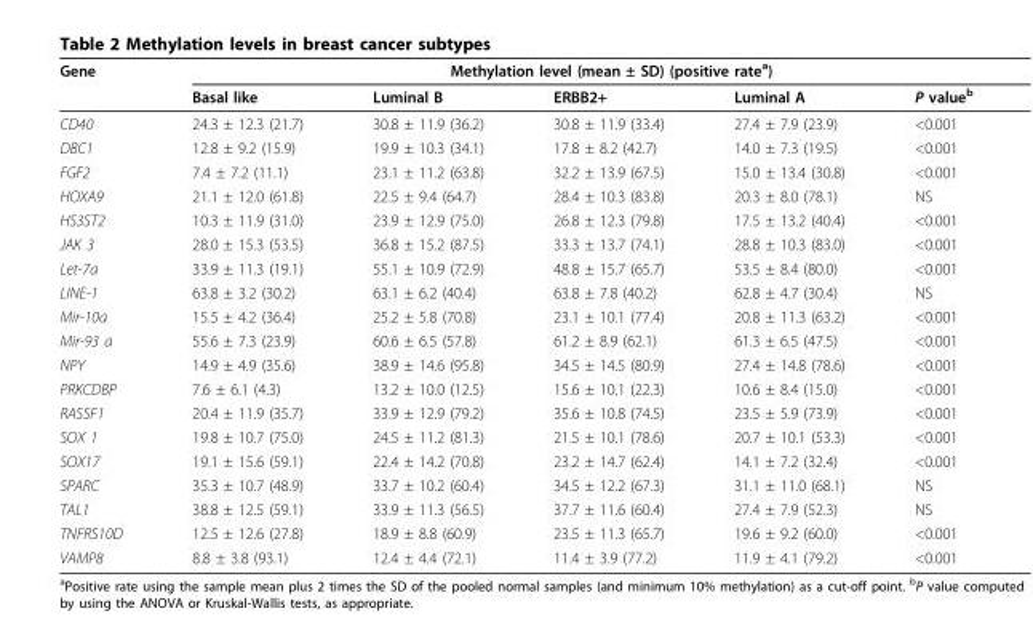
<table><thead><tr><td rowspan="2">Gene</td><td colspan="5">Methylation level (mean ± SD) (positive rate<sup>a</sup>)</td></tr><tr><td>Basal like</td><td>Luminal B</td><td>ERBB2+</td><td>Luminal A</td><td>P value<sup>b</sup></td></tr></thead><tbody><tr><td>CD40</td><td>24.3 ± 12.3 (21.7)</td><td>30.8 ± 11.9 (36.2)</td><td>30.8 ± 11.9 (33.4)</td><td>27.4 ± 7.9 (23.9)</td><td>&lt;0.001</td></tr><tr><td>DBC1</td><td>12.8 ± 9.2 (15.9)</td><td>19.9 ± 10.3 (34.1)</td><td>17.8 ± 8.2 (42.7)</td><td>14.0 ± 7.3 (19.5)</td><td>&lt;0.001</td></tr><tr><td>FGF2</td><td>7.4 ± 7.2 (11.1)</td><td>23.1 ± 11.2 (63.8)</td><td>32.2 ± 13.9 (67.5)</td><td>15.0 ± 13.4 (30.8)</td><td>&lt;0.001</td></tr><tr><td>HOXA9</td><td>21.1 ± 12.0 (61.8)</td><td>22.5 ± 9.4 (64.7)</td><td>28.4 ± 10.3 (83.8)</td><td>20.3 ± 8.0 (78.1)</td><td>NS</td></tr><tr><td>HS3ST2</td><td>10.3 ± 11.9 (31.0)</td><td>23.9 ± 12.9 (75.0)</td><td>26.8 ± 12.3 (79.8)</td><td>17.5 ± 13.2 (40.4)</td><td>&lt;0.001</td></tr><tr><td>JAK 3</td><td>28.0 ± 15.3 (53.5)</td><td>36.8 ± 15.2 (87.5)</td><td>33.3 ± 13.7 (74.1)</td><td>28.8 ± 10.3 (83.0)</td><td>&lt;0.001</td></tr><tr><td>Let-7a</td><td>33.9 ± 11.3 (19.1)</td><td>55.1 ± 10.9 (72.9)</td><td>48.8 ± 15.7 (65.7)</td><td>53.5 ± 8.4 (80.0)</td><td>&lt;0.001</td></tr><tr><td>LINE-1</td><td>63.8 ± 3.2 (30.2)</td><td>63.1 ± 6.2 (40.4)</td><td>63.8 ± 7.8 (40.2)</td><td>62.8 ± 4.7 (30.4)</td><td>NS</td></tr><tr><td>Mir-10a</td><td>15.5 ± 4.2 (36.4)</td><td>25.2 ± 5.8 (70.8)</td><td>23.1 ± 10.1 (77.4)</td><td>20.8 ± 11.3 (63.2)</td><td>&lt;0.001</td></tr><tr><td>Mir-93 a</td><td>55.6 ± 7.3 (23.9)</td><td>60.6 ± 6.5 (57.8)</td><td>61.2 ± 8.9 (62.1)</td><td>61.3 ± 6.5 (47.5)</td><td>&lt;0.001</td></tr><tr><td>NPY</td><td>14.9 ± 4.9 (35.6)</td><td>38.9 ± 14.6 (95.8)</td><td>34.5 ± 14.5 (80.9)</td><td>27.4 ± 14.8 (78.6)</td><td>&lt;0.001</td></tr><tr><td>PRKCDBP</td><td>7.6 ± 6.1 (4.3)</td><td>13.2 ± 10.0 (12.5)</td><td>15.6 ± 10.1 (22.3)</td><td>10.6 ± 8.4 (15.0)</td><td>&lt;0.001</td></tr><tr><td>RASSF1</td><td>20.4 ± 11.9 (35.7)</td><td>33.9 ± 12.9 (79.2)</td><td>35.6 ± 10.8 (74.5)</td><td>23.5 ± 5.9 (73.9)</td><td>&lt;0.001</td></tr><tr><td>SOX 1</td><td>19.8 ± 10.7 (75.0)</td><td>24.5 ± 11.2 (81.3)</td><td>21.5 ± 10.1 (78.6)</td><td>20.7 ± 10.1 (53.3)</td><td>&lt;0.001</td></tr><tr><td>SOX17</td><td>19.1 ± 15.6 (59.1)</td><td>22.4 ± 14.2 (70.8)</td><td>23.2 ± 14.7 (62.4)</td><td>14.1 ± 7.2 (32.4)</td><td>&lt;0.001</td></tr><tr><td>SPARC</td><td>35.3 ± 10.7 (48.9)</td><td>33.7 ± 10.2 (60.4)</td><td>34.5 ± 12.2 (67.3)</td><td>31.1 ± 11.0 (68.1)</td><td>NS</td></tr><tr><td>TAL1</td><td>38.8 ± 12.5 (59.1)</td><td>33.9 ± 11.3 (56.5)</td><td>37.7 ± 11.6 (60.4)</td><td>27.4 ± 7.9 (52.3)</td><td>NS</td></tr><tr><td>TNFRS10D</td><td>12.5 ± 12.6 (27.8)</td><td>18.9 ± 8.8 (60.9)</td><td>23.5 ± 11.3 (65.7)</td><td>19.6 ± 9.2 (60.0)</td><td>&lt;0.001</td></tr><tr><td>VAMP8</td><td>8.8 ± 3.8 (93.1)</td><td>12.4 ± 4.4 (72.1)</td><td>11.4 ± 3.9 (77.2)</td><td>11.9 ± 4.1 (79.2)</td><td>&lt;0.001</td></tr></tbody></table>